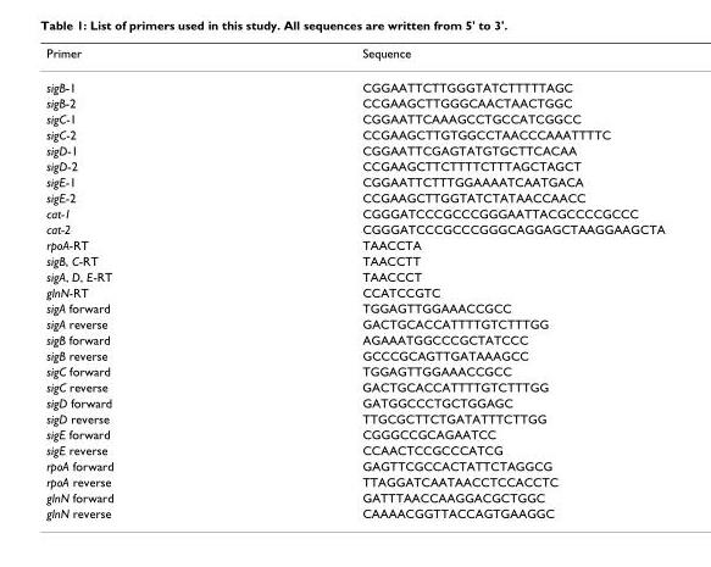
<table><thead><tr><td>Primer</td><td>Sequence</td></tr></thead><tbody><tr><td>sigB-1</td><td>CGGAATTCTTGGGTATCTTTTTAGC</td></tr><tr><td>sigB-2</td><td>CCGAAGCTTGGGCAACTAACTGGC</td></tr><tr><td>sigC-1</td><td>CGGAATTCAAAGCCTGCCATCGGCC</td></tr><tr><td>sigC-2</td><td>CCGAAGCTTGTGGCCTAACCCAAATTTTC</td></tr><tr><td>sigD-1</td><td>CGGAATTCGAGTATGTGCTTCACAA</td></tr><tr><td>sigD-2</td><td>CCGAAGCTTCTTTTCTTTAGCTAGCT</td></tr><tr><td>sigE-1</td><td>CGGAATTCTTTGGAAAATCAATGACA</td></tr><tr><td>sigE-2</td><td>CCGAAGCTTGGTATCTATAACCAACC</td></tr><tr><td>cat-1</td><td>CGGGATCCCGCCCGGGAATTACGCCCCGCCC</td></tr><tr><td>cat-2</td><td>CGGGATCCCGCCCGGGCAGGAGCTAAGGAAGCTA</td></tr><tr><td>rpoA-RT</td><td>TAACCTA</td></tr><tr><td>sigB, C-RT</td><td>TAACCTT</td></tr><tr><td>sigA, D, E-RT</td><td>TAACCCT</td></tr><tr><td>glnN-RT</td><td>CCATCCGTC</td></tr><tr><td>sigA forward</td><td>TGGAGTTGGAAACCGCC</td></tr><tr><td>sigA reverse</td><td>GACTGCACCATTTTGTCTTTGG</td></tr><tr><td>sigB forward</td><td>AGAAATGGCCCGCTATCCC</td></tr><tr><td>sigB reverse</td><td>GCCCGCAGTTGATAAAGCC</td></tr><tr><td>sigC forward</td><td>TGGAGTTGGAAACCGCC</td></tr><tr><td>sigC reverse</td><td>GACTGCACCATTTTGTCTTTGG</td></tr><tr><td>sigD forward</td><td>GATGGCCCTGCTGGAGC</td></tr><tr><td>sigD reverse</td><td>TTGCGCTTCTGATATTTCTTGG</td></tr><tr><td>sigE forward</td><td>CGGGCCGCAGAATCC</td></tr><tr><td>sigE reverse</td><td>CCAACTCCGCCCATCG</td></tr><tr><td>rpoA forward</td><td>GAGTTCGCCACTATTCTAGGCG</td></tr><tr><td>rpoA reverse</td><td>TTAGGATCAATAACCTCCACCTC</td></tr><tr><td>glnN forward</td><td>GATTTAACCAAGGACGCTGGC</td></tr><tr><td>glnN reverse</td><td>CAAAACGGTTACCAGTGAAGGC</td></tr></tbody></table>